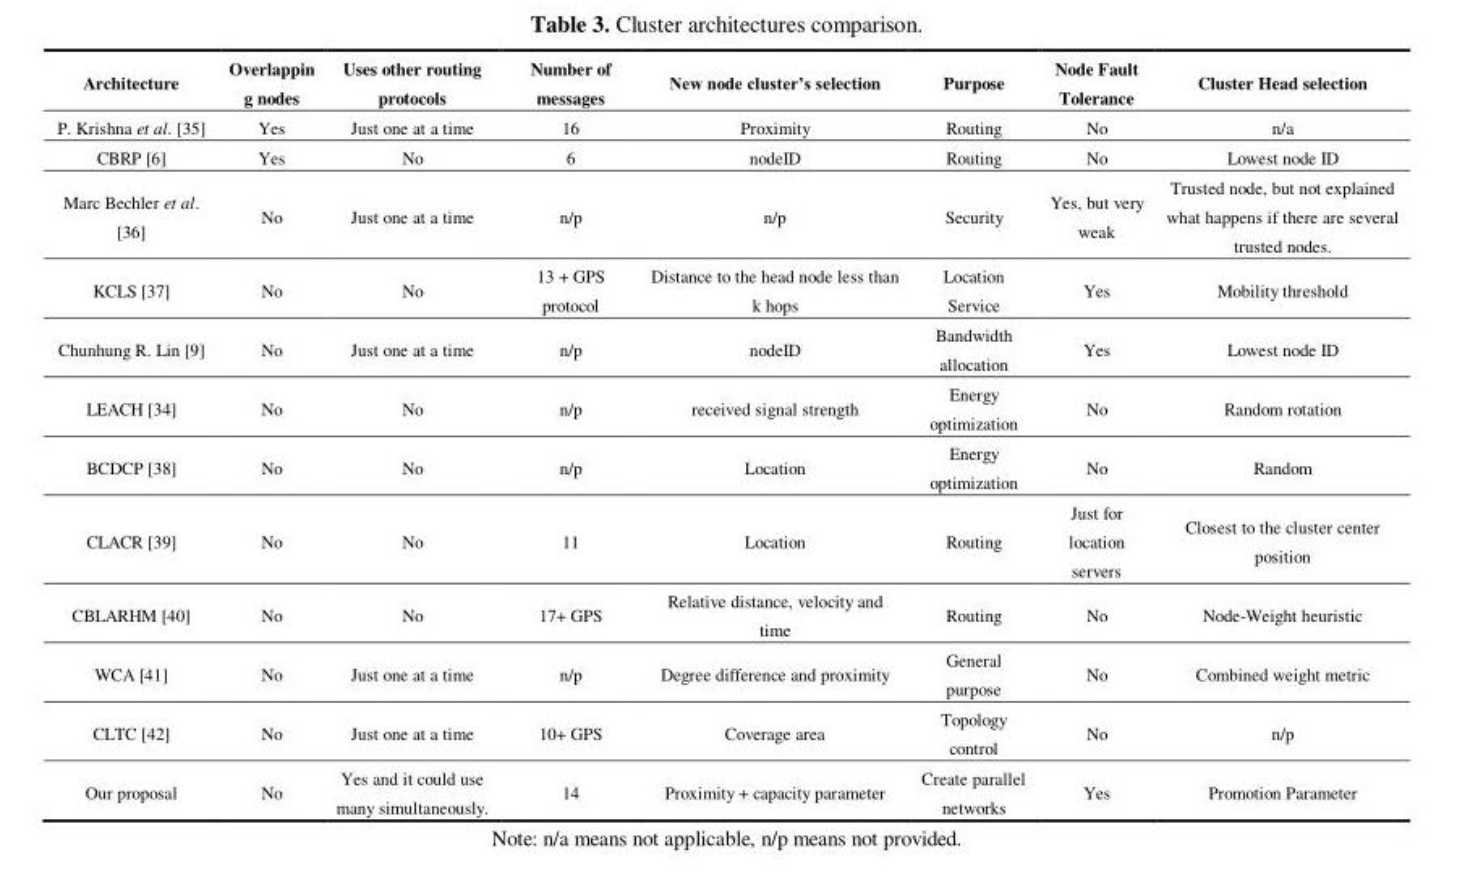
<table><thead><tr><td>Architecture</td><td>Overlappin g nodes</td><td>Uses other routing protocols</td><td>Number of messages</td><td>New node cluster’s selection</td><td>Purpose</td><td>Node Fault Tolerance</td><td>Cluster Head selection</td></tr></thead><tbody><tr><td>P. Krishna et al. [35]</td><td>Yes</td><td>Just one at a time</td><td>16</td><td>Proximity</td><td>Routing</td><td>No</td><td>n/a</td></tr><tr><td>CBRP [6]</td><td>Yes</td><td>No</td><td>6</td><td>nodeID</td><td>Routing</td><td>No</td><td>Lowest node ID</td></tr><tr><td>Marc Bechler et al. [36]</td><td>No</td><td>Just one at a time</td><td>n/p</td><td>n/p</td><td>Security</td><td>Yes, but very weak</td><td>Trusted node, but not explained what happens if there are several trusted nodes.</td></tr><tr><td>KCLS [37]</td><td>No</td><td>No</td><td>13 + GPS protocol</td><td>Distance to the head node less than k hops</td><td>Location Service</td><td>Yes</td><td>Mobility threshold</td></tr><tr><td>Chunhung R. Lin [9]</td><td>No</td><td>Just one at a time</td><td>n/p</td><td>nodeID</td><td>Bandwidth allocation</td><td>Yes</td><td>Lowest node ID</td></tr><tr><td>LEACH [34]</td><td>No</td><td>No</td><td>n/p</td><td>received signal strength</td><td>Energy optimization</td><td>No</td><td>Random rotation</td></tr><tr><td>BCDCP [38]</td><td>No</td><td>No</td><td>n/p</td><td>Location</td><td>Energy optimization</td><td>No</td><td>Random</td></tr><tr><td>CLACR [39]</td><td>No</td><td>No</td><td>11</td><td>Location</td><td>Routing</td><td>Just for location servers</td><td>Closest to the cluster center position</td></tr><tr><td>CBLARHM [40]</td><td>No</td><td>No</td><td>17+ GPS</td><td>Relative distance, velocity and time</td><td>Routing</td><td>No</td><td>Node-Weight heuristic</td></tr><tr><td>WCA [41]</td><td>No</td><td>Just one at a time</td><td>n/p</td><td>Degree difference and proximity</td><td>General purpose</td><td>No</td><td>Combined weight metric</td></tr><tr><td>CLTC [42]</td><td>No</td><td>Just one at a time</td><td>10+ GPS</td><td>Coverage area</td><td>Topology control</td><td>No</td><td>n/p</td></tr><tr><td>Our proposal</td><td>No</td><td>Yes and it could use many simultaneously.</td><td>14</td><td>Proximity + capacity parameter</td><td>Create parallel networks</td><td>Yes</td><td>Promotion Parameter</td></tr></tbody></table>